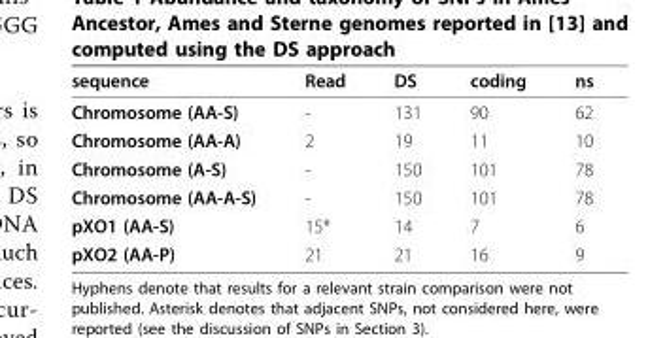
<table><thead><tr><td>sequence</td><td>Read</td><td>DS</td><td>coding</td><td>ns</td></tr></thead><tbody><tr><td>Chromosome (AA-S)</td><td>-</td><td>131</td><td>90</td><td>62</td></tr><tr><td>Chromosome (AA-A)</td><td>2</td><td>19</td><td>11</td><td>10</td></tr><tr><td>Chromosome (A-S)</td><td>-</td><td>150</td><td>101</td><td>78</td></tr><tr><td>Chromosome (AA-A-S)</td><td>-</td><td>150</td><td>101</td><td>78</td></tr><tr><td>pXO1 (AA-S)</td><td>15*</td><td>14</td><td>7</td><td>6</td></tr><tr><td>pXO2 (AA-P)</td><td>21</td><td>21</td><td>16</td><td>9</td></tr></tbody></table>